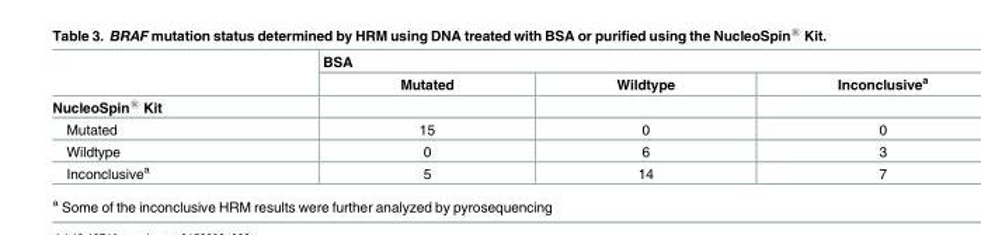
<table><thead><tr><td rowspan="2"></td><td colspan="3">BSA</td></tr><tr><td>Mutated</td><td>Wildtype</td><td>Inconclusive<sup>a</sup></td></tr></thead><tbody><tr><td colspan="4">NucleoSpin<sup>®</sup> Kit</td></tr><tr><td>Mutated</td><td>15</td><td>0</td><td>0</td></tr><tr><td>Wildtype</td><td>0</td><td>6</td><td>3</td></tr><tr><td>Inconclusive<sup>a</sup></td><td>5</td><td>14</td><td>7</td></tr></tbody></table>